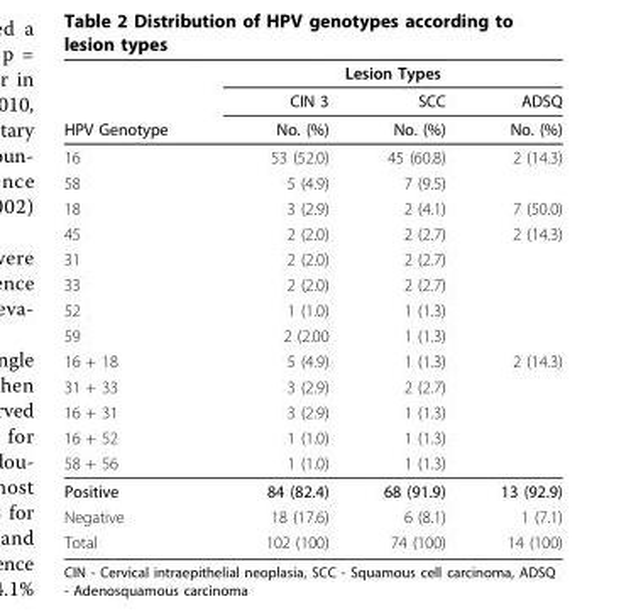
<table><thead><tr><td rowspan="3">HPV Genotype</td><td colspan="3">Lesion Types</td></tr><tr><td rowspan="2">CIN 3 No. (%)</td><td rowspan="2">SCC No. (%)</td><td rowspan="2">ADSQ No. (%)</td></tr><tr></tr></thead><tbody><tr><td>16</td><td>53 (52.0)</td><td>45 (60.8)</td><td>2 (14.3)</td></tr><tr><td>58</td><td>5 (4.9)</td><td>7 (9.5)</td><td></td></tr><tr><td>18</td><td>3 (2.9)</td><td>2 (4.1)</td><td>7 (50.0)</td></tr><tr><td>45</td><td>2 (2.0)</td><td>2 (2.7)</td><td>2 (14.3)</td></tr><tr><td>31</td><td>2 (2.0)</td><td>2 (2.7)</td><td></td></tr><tr><td>33</td><td>2 (2.0)</td><td>2 (2.7)</td><td></td></tr><tr><td>52</td><td>1 (1.0)</td><td>1 (1.3)</td><td></td></tr><tr><td>59</td><td>2 (2.00</td><td>1 (1.3)</td><td></td></tr><tr><td>16 + 18</td><td>5 (4.9)</td><td>1 (1.3)</td><td>2 (14.3)</td></tr><tr><td>31 + 33</td><td>3 (2.9)</td><td>2 (2.7)</td><td></td></tr><tr><td>16 + 31</td><td>3 (2.9)</td><td>1 (1.3)</td><td></td></tr><tr><td>16 + 52</td><td>1 (1.0)</td><td>1 (1.3)</td><td></td></tr><tr><td>58 + 56</td><td>1 (1.0)</td><td>1 (1.3)</td><td></td></tr><tr><td>Positive</td><td>84 (82.4)</td><td>68 (91.9)</td><td>13 (92.9)</td></tr><tr><td>Negative</td><td>18 (17.6)</td><td>6 (8.1)</td><td>1 (7.1)</td></tr><tr><td>Total</td><td>102 (100)</td><td>74 (100)</td><td>14 (100)</td></tr></tbody></table>